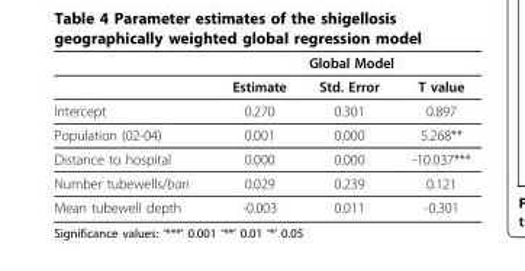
<table><thead><tr><td rowspan="2"></td><td colspan="3">Global Model</td></tr><tr><td>Estimate</td><td>Std. Error</td><td>T value</td></tr></thead><tbody><tr><td>Intercept</td><td>0.270</td><td>0.301</td><td>0.897</td></tr><tr><td>Population (02-04)</td><td>0.001</td><td>0.000</td><td>5.268**</td></tr><tr><td>Distance to hospital</td><td>0.000</td><td>0.000</td><td>-10.037***</td></tr><tr><td>Number tubewells/bari</td><td>0.029</td><td>0.239</td><td>0.121</td></tr><tr><td>Mean tubewell depth</td><td>-0.003</td><td>0.011</td><td>-0.301</td></tr></tbody></table>